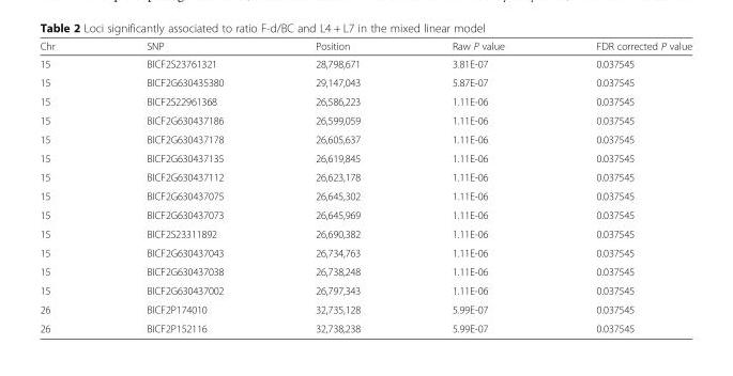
<table><thead><tr><td>Chr</td><td>SNP</td><td>Position</td><td>Raw P value</td><td>FDR corrected P value</td></tr></thead><tbody><tr><td>15</td><td>BICF2S23761321</td><td>28,798,671</td><td>3.81E-07</td><td>0.037545</td></tr><tr><td>15</td><td>BICF2G630435380</td><td>29,147,043</td><td>5.87E-07</td><td>0.037545</td></tr><tr><td>15</td><td>BICF2S22961368</td><td>26,586,223</td><td>1.11E-06</td><td>0.037545</td></tr><tr><td>15</td><td>BICF2G630437186</td><td>26,599,059</td><td>1.11E-06</td><td>0.037545</td></tr><tr><td>15</td><td>BICF2G630437178</td><td>26,605,637</td><td>1.11E-06</td><td>0.037545</td></tr><tr><td>15</td><td>BICF2G630437135</td><td>26,619,845</td><td>1.11E-06</td><td>0.037545</td></tr><tr><td>15</td><td>BICF2G630437112</td><td>26,623,178</td><td>1.11E-06</td><td>0.037545</td></tr><tr><td>15</td><td>BICF2G630437075</td><td>26,645,302</td><td>1.11E-06</td><td>0.037545</td></tr><tr><td>15</td><td>BICF2G630437073</td><td>26,645,969</td><td>1.11E-06</td><td>0.037545</td></tr><tr><td>15</td><td>BICF2S23311892</td><td>26,690,382</td><td>1.11E-06</td><td>0.037545</td></tr><tr><td>15</td><td>BICF2G630437043</td><td>26,734,763</td><td>1.11E-06</td><td>0.037545</td></tr><tr><td>15</td><td>BICF2G630437038</td><td>26,738,248</td><td>1.11E-06</td><td>0.037545</td></tr><tr><td>15</td><td>BICF2G630437002</td><td>26,797,343</td><td>1.11E-06</td><td>0.037545</td></tr><tr><td>26</td><td>BICF2P174010</td><td>32,735,128</td><td>5.99E-07</td><td>0.037545</td></tr><tr><td>26</td><td>BICF2P152116</td><td>32,738,238</td><td>5.99E-07</td><td>0.037545</td></tr></tbody></table>